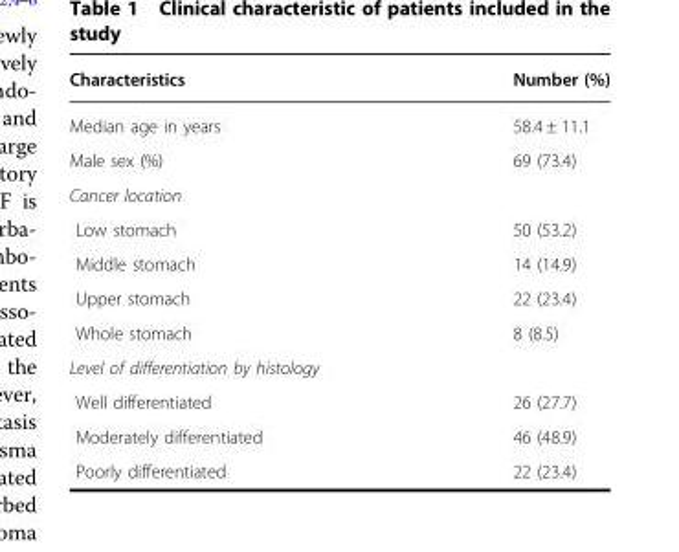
<table><thead><tr><td>Characteristics</td><td>Number (%)</td></tr></thead><tbody><tr><td>Median age in years</td><td>58.4 ± 11.1</td></tr><tr><td>Male sex (%)</td><td>69 (73.4)</td></tr><tr><td colspan="2">Cancer location</td></tr><tr><td>Low stomach</td><td>50 (53.2)</td></tr><tr><td>Middle stomach</td><td>14 (14.9)</td></tr><tr><td>Upper stomach</td><td>22 (23.4)</td></tr><tr><td>Whole stomach</td><td>8 (8.5)</td></tr><tr><td colspan="2">Level of differentiation by histology</td></tr><tr><td>Well differentiated</td><td>26 (27.7)</td></tr><tr><td>Moderately differentiated</td><td>46 (48.9)</td></tr><tr><td>Poorly differentiated</td><td>22 (23.4)</td></tr></tbody></table>